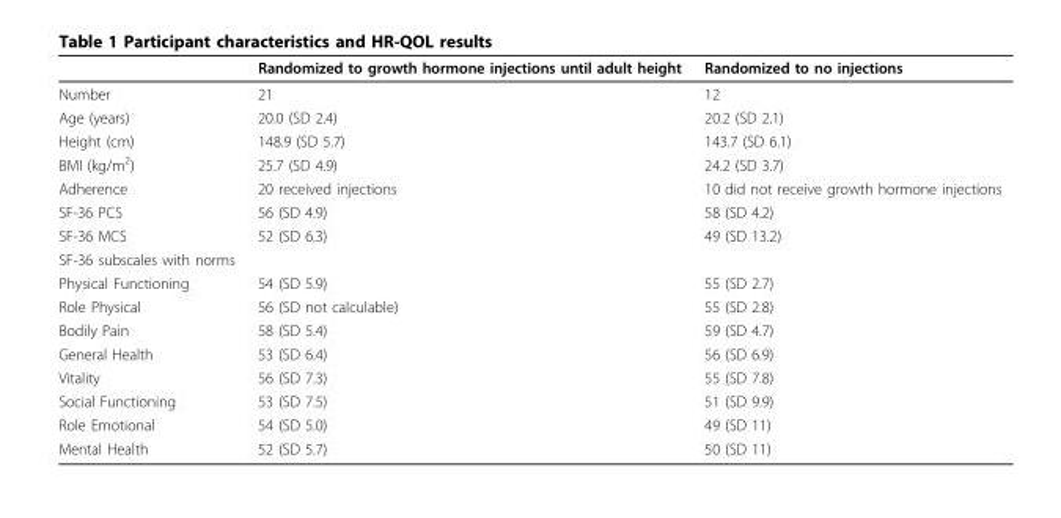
<table><thead><tr><td></td><td>Randomized to growth hormone injections until adult height</td><td>Randomized to no injections</td></tr></thead><tbody><tr><td>Number</td><td>21</td><td>12</td></tr><tr><td>Age (years)</td><td>20.0 (SD 2.4)</td><td>20.2 (SD 2.1)</td></tr><tr><td>Height (cm)</td><td>148.9 (SD 5.7)</td><td>143.7 (SD 6.1)</td></tr><tr><td>BMI (kg/m<sup>2</sup>)</td><td>25.7 (SD 4.9)</td><td>24.2 (SD 3.7)</td></tr><tr><td>Adherence</td><td>20 received injections</td><td>10 did not receive growth hormone injections</td></tr><tr><td>SF-36 PCS</td><td>56 (SD 4.9)</td><td>58 (SD 4.2)</td></tr><tr><td>SF-36 MCS</td><td>52 (SD 6.3)</td><td>49 (SD 13.2)</td></tr><tr><td colspan="3">SF-36 subscales with norms</td></tr><tr><td>Physical Functioning</td><td>54 (SD 5.9)</td><td>55 (SD 2.7)</td></tr><tr><td>Role Physical</td><td>56 (SD not calculable)</td><td>55 (SD 2.8)</td></tr><tr><td>Bodily Pain</td><td>58 (SD 5.4)</td><td>59 (SD 4.7)</td></tr><tr><td>General Health</td><td>53 (SD 6.4)</td><td>56 (SD 6.9)</td></tr><tr><td>Vitality</td><td>56 (SD 7.3)</td><td>55 (SD 7.8)</td></tr><tr><td>Social Functioning</td><td>53 (SD 7.5)</td><td>51 (SD 9.9)</td></tr><tr><td>Role Emotional</td><td>54 (SD 5.0)</td><td>49 (SD 11)</td></tr><tr><td>Mental Health</td><td>52 (SD 5.7)</td><td>50 (SD 11)</td></tr></tbody></table>